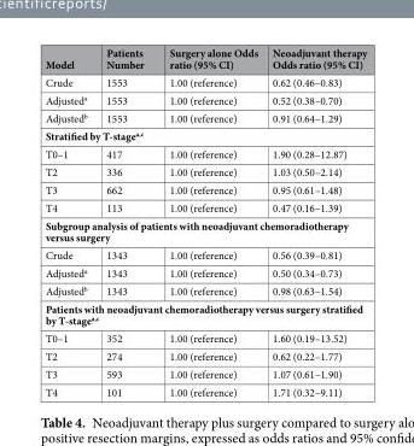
<table><thead><tr><td>Model</td><td>Patients Number</td><td>Surgery alone Odds ratio (95% CI)</td><td>Neoadjuvant therapy Odds ratio (95% CI)</td></tr></thead><tbody><tr><td>Crude</td><td>1553</td><td>1.00 (reference)</td><td>0.62 (0.46–0.83)</td></tr><tr><td>Adjusted<sup>a</sup></td><td>1553</td><td>1.00 (reference)</td><td>0.52 (0.38–0.70)</td></tr><tr><td>Adjusted<sup>b</sup></td><td>1553</td><td>1.00 (reference)</td><td>0.91 (0.64–1.29)</td></tr><tr><td colspan="4">Stratified by T-stage<sup>a,c</sup></td></tr><tr><td>T0–1</td><td>417</td><td>1.00 (reference)</td><td>1.90 (0.28–12.87)</td></tr><tr><td>T2</td><td>336</td><td>1.00 (reference)</td><td>1.03 (0.50–2.14)</td></tr><tr><td>T3</td><td>662</td><td>1.00 (reference)</td><td>0.95 (0.61–1.48)</td></tr><tr><td>T4</td><td>113</td><td>1.00 (reference)</td><td>0.47 (0.16–1.39)</td></tr><tr><td colspan="4">Subgroup analysis of patients with neoadjuvant chemoradiotherapy versus surgery</td></tr><tr><td>Crude</td><td>1343</td><td>1.00 (reference)</td><td>0.56 (0.39–0.81)</td></tr><tr><td>Adjusted<sup>a</sup></td><td>1343</td><td>1.00 (reference)</td><td>0.50 (0.34–0.73)</td></tr><tr><td>Adjusted<sup>b</sup></td><td>1343</td><td>1.00 (reference)</td><td>0.98 (0.63–1.54)</td></tr><tr><td colspan="4">Patients with neoadjuvant chemoradiotherapy versus surgery stratified by T-stage<sup>a,c</sup></td></tr><tr><td>T0–1</td><td>352</td><td>1.00 (reference)</td><td>1.60 (0.19–13.52)</td></tr><tr><td>T2</td><td>274</td><td>1.00 (reference)</td><td>0.62 (0.22–1.77)</td></tr><tr><td>T3</td><td>593</td><td>1.00 (reference)</td><td>1.07 (0.61–1.90)</td></tr><tr><td>T4</td><td>101</td><td>1.00 (reference)</td><td>1.71 (0.32–9.11)</td></tr></tbody></table>